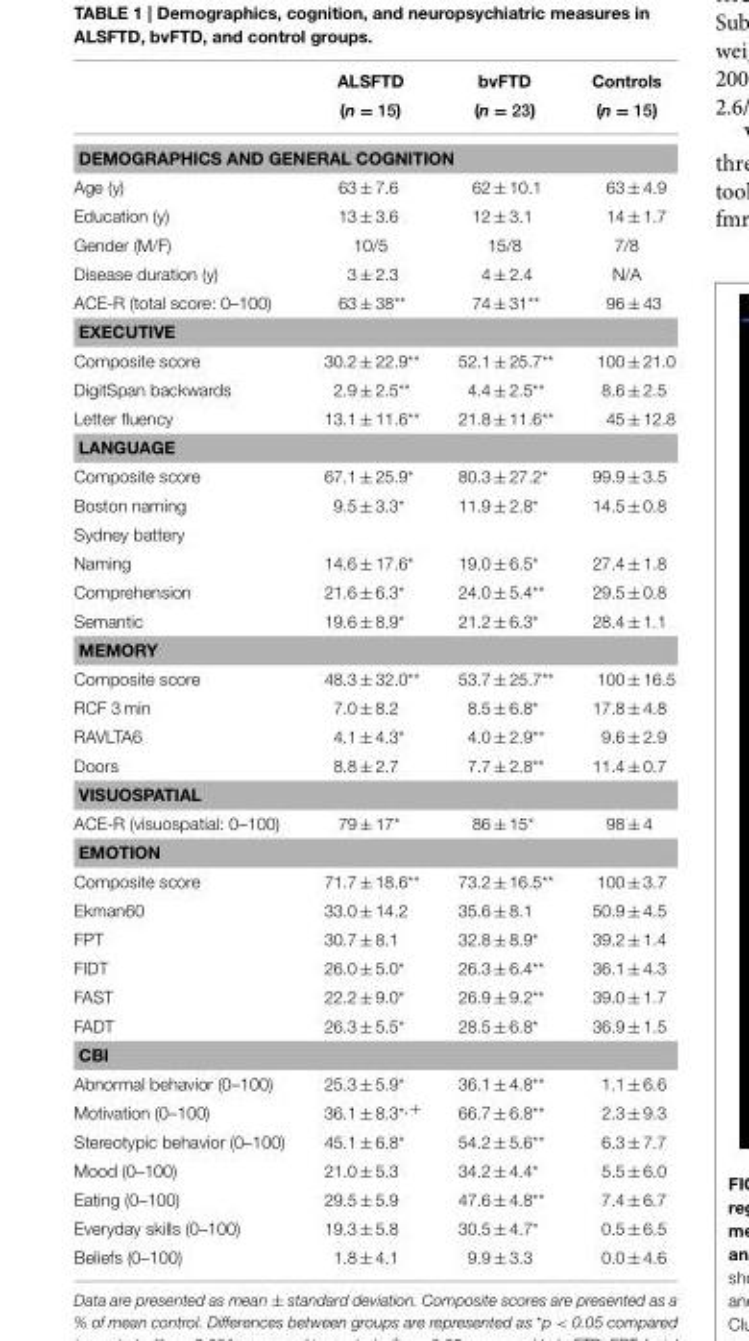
<table><thead><tr><td rowspan="2"></td><td rowspan="2">ALSFTD (n = 15)</td><td rowspan="2">bvFTD (n = 23)</td><td rowspan="2">Controls (n = 15)</td></tr><tr></tr></thead><tbody><tr><td colspan="4">DEMOGRAPHICS AND GENERAL COGNITION</td></tr><tr><td>Age (y)</td><td>63 ± 7.6</td><td>62 ± 10.1</td><td>63 ± 4.9</td></tr><tr><td>Education (y)</td><td>13 ± 3.6</td><td>12 ± 3.1</td><td>14 ± 1.7</td></tr><tr><td>Gender (M/F)</td><td>10/5</td><td>15/8</td><td>7/8</td></tr><tr><td>Disease duration (y)</td><td>3 ± 2.3</td><td>4 ± 2.4</td><td>N/A</td></tr><tr><td>ACE-R (total score: 0–100)</td><td>63 ± 38**</td><td>74 ± 31**</td><td>96 ± 43</td></tr><tr><td colspan="4">EXECUTIVE</td></tr><tr><td>Composite score</td><td>30.2 ± 22.9**</td><td>52.1 ± 25.7**</td><td>100 ± 21.0</td></tr><tr><td>DigitSpan backwards</td><td>2.9 ± 2.5**</td><td>4.4 ± 2.5**</td><td>8.6 ± 2.5</td></tr><tr><td>Letter fluency</td><td>13.1 ± 11.6**</td><td>21.8 ± 11.6**</td><td>45 ± 12.8</td></tr><tr><td colspan="4">LANGUAGE</td></tr><tr><td>Composite score</td><td>67.1 ± 25.9*</td><td>80.3 ± 27.2*</td><td>99.9 ± 3.5</td></tr><tr><td>Boston naming</td><td>9.5 ± 3.3*</td><td>11.9 ± 2.8*</td><td>14.5 ± 0.8</td></tr><tr><td colspan="4">Sydney battery</td></tr><tr><td>Naming</td><td>14.6 ± 17.6*</td><td>19.0 ± 6.5*</td><td>27.4 ± 1.8</td></tr><tr><td>Comprehension</td><td>21.6 ± 6.3*</td><td>24.0 ± 5.4**</td><td>29.5 ± 0.8</td></tr><tr><td>Semantic</td><td>19.6 ± 8.9*</td><td>21.2 ± 6.3*</td><td>28.4 ± 1.1</td></tr><tr><td colspan="4">MEMORY</td></tr><tr><td>Composite score</td><td>48.3 ± 32.0**</td><td>53.7 ± 25.7**</td><td>100 ± 16.5</td></tr><tr><td>RCF 3 min</td><td>7.0 ± 8.2</td><td>8.5 ± 6.8*</td><td>17.8 ± 4.8</td></tr><tr><td>RAVLTA6</td><td>4.1 ± 4.3*</td><td>4.0 ± 2.9**</td><td>9.6 ± 2.9</td></tr><tr><td>Doors</td><td>8.8 ± 2.7</td><td>7.7 ± 2.8**</td><td>11.4 ± 0.7</td></tr><tr><td colspan="4">VISUOSPATIAL</td></tr><tr><td>ACE-R (visuospatial: 0–100)</td><td>79 ± 17*</td><td>86 ± 15*</td><td>98 ± 4</td></tr><tr><td colspan="4">EMOTION</td></tr><tr><td>Composite score</td><td>71.7 ± 18.6**</td><td>73.2 ± 16.5**</td><td>100 ± 3.7</td></tr><tr><td>Ekman60</td><td>33.0 ± 14.2</td><td>35.6 ± 8.1</td><td>50.9 ± 4.5</td></tr><tr><td>FPT</td><td>30.7 ± 8.1</td><td>32.8 ± 8.9*</td><td>39.2 ± 1.4</td></tr><tr><td>FIDT</td><td>26.0 ± 5.0*</td><td>26.3 ± 6.4**</td><td>36.1 ± 4.3</td></tr><tr><td>FAST</td><td>22.2 ± 9.0*</td><td>26.9 ± 9.2**</td><td>39.0 ± 1.7</td></tr><tr><td>FADT</td><td>26.3 ± 5.5*</td><td>28.5 ± 6.8*</td><td>36.9 ± 1.5</td></tr><tr><td colspan="4">CBI</td></tr><tr><td>Abnormal behavior (0–100)</td><td>25.3 ± 5.9*</td><td>36.1 ± 4.8**</td><td>1.1 ± 6.6</td></tr><tr><td>Motivation (0–100)</td><td>36.1 ± 8.3<sup>*,+</sup></td><td>66.7 ± 6.8**</td><td>2.3 ± 9.3</td></tr><tr><td>Stereotypic behavior (0–100)</td><td>45.1 ± 6.8*</td><td>54.2 ± 5.6**</td><td>6.3 ± 7.7</td></tr><tr><td>Mood (0–100)</td><td>21.0 ± 5.3</td><td>34.2 ± 4.4*</td><td>5.5 ± 6.0</td></tr><tr><td>Eating (0–100)</td><td>29.5 ± 5.9</td><td>47.6 ± 4.8**</td><td>7.4 ± 6.7</td></tr><tr><td>Everyday skills (0–100)</td><td>19.3 ± 5.8</td><td>30.5 ± 4.7*</td><td>0.5 ± 6.5</td></tr><tr><td>Beliefs (0–100)</td><td>1.8 ± 4.1</td><td>9.9 ± 3.3</td><td>0.0 ± 4.6</td></tr></tbody></table>